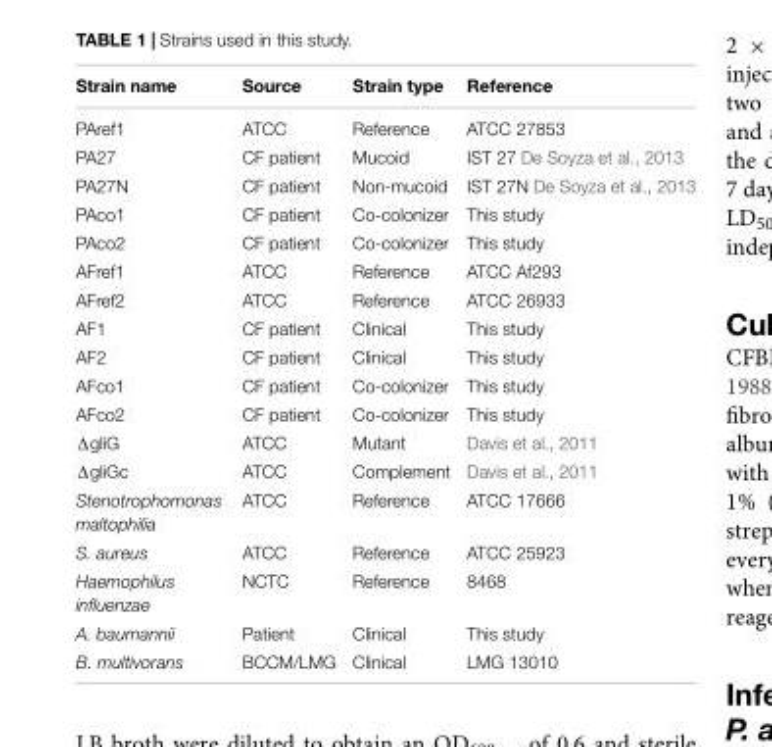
<table><thead><tr><td>Strain name</td><td>Source</td><td>Strain type</td><td>Reference</td></tr></thead><tbody><tr><td>PAref1</td><td>ATCC</td><td>Reference</td><td>ATCC 27853</td></tr><tr><td>PA27</td><td>CF patient</td><td>Mucoid</td><td>IST 27 De Soyza et al., 2013</td></tr><tr><td>PA27N</td><td>CF patient</td><td>Non-mucoid</td><td>IST 27N De Soyza et al., 2013</td></tr><tr><td>PAco1</td><td>CF patient</td><td>Co-colonizer</td><td>This study</td></tr><tr><td>PAco2</td><td>CF patient</td><td>Co-colonizer</td><td>This study</td></tr><tr><td>AFref1</td><td>ATCC</td><td>Reference</td><td>ATCC Af293</td></tr><tr><td>AFref2</td><td>ATCC</td><td>Reference</td><td>ATCC 26933</td></tr><tr><td>AF1</td><td>CF patient</td><td>Clinical</td><td>This study</td></tr><tr><td>AF2</td><td>CF patient</td><td>Clinical</td><td>This study</td></tr><tr><td>AFco1</td><td>CF patient</td><td>Co-colonizer</td><td>This study</td></tr><tr><td>AFco2</td><td>CF patient</td><td>Co-colonizer</td><td>This study</td></tr><tr><td>ΔgliG</td><td>ATCC</td><td>Mutant</td><td>Davis et al., 2011</td></tr><tr><td>ΔgliGc</td><td>ATCC</td><td>Complement</td><td>Davis et al., 2011</td></tr><tr><td>Stenotrophomonas maltophilia</td><td>ATCC</td><td>Reference</td><td>ATCC 17666</td></tr><tr><td>S. aureus</td><td>ATCC</td><td>Reference</td><td>ATCC 25923</td></tr><tr><td>Haemophilus influenzae</td><td>NCTC</td><td>Reference</td><td>8468</td></tr><tr><td>A. baumannii</td><td>Patient</td><td>Clinical</td><td>This study</td></tr><tr><td>B. multivorans</td><td>BCCM/LMG</td><td>Clinical</td><td>LMG 13010</td></tr></tbody></table>